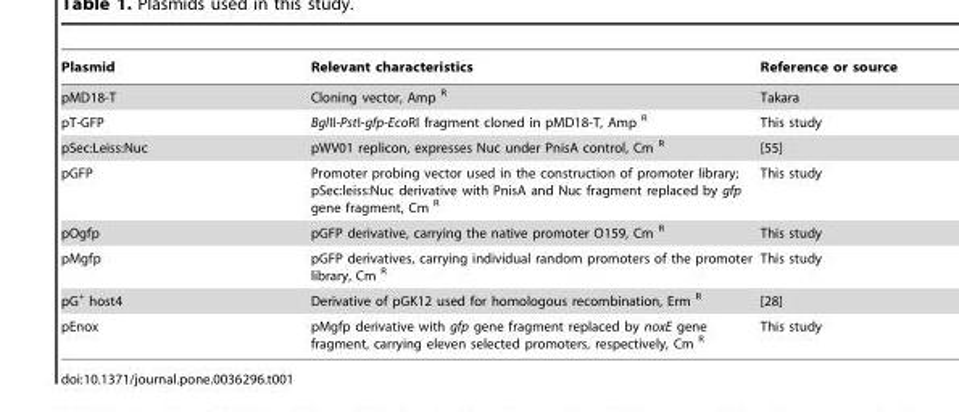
<table><thead><tr><td>Plasmid</td><td>Relevant characteristics</td><td>Reference or source</td></tr></thead><tbody><tr><td>pMD18-T</td><td>Cloning vector, Amp <sup>R</sup></td><td>Takara</td></tr><tr><td>pT-GFP</td><td>BglII-PstI-gfp-EcoRI fragment cloned in pMD18-T, Amp <sup>R</sup></td><td>This study</td></tr><tr><td>pSec:Leiss:Nuc</td><td>pWV01 replicon, expresses Nuc under PnisA control, Cm <sup>R</sup></td><td>[55]</td></tr><tr><td>pGFP</td><td>Promoter probing vector used in the construction of promoter library; pSec:leiss:Nuc derivative with PnisA and Nuc fragment replaced by gfp gene fragment, Cm R</td><td>This study</td></tr><tr><td>pOgfp</td><td>pGFP derivative, carrying the native promoter O159, Cm <sup>R</sup></td><td>This study</td></tr><tr><td>pMgfp</td><td>pGFP derivatives, carrying individual random promoters of the promoter library, Cm <sup>R</sup></td><td>This study</td></tr><tr><td>pG<sup>+</sup> host4</td><td>Derivative of pGK12 used for homologous recombination, Erm <sup>R</sup></td><td>[28]</td></tr><tr><td>pEnox</td><td>pMgfp derivative with gfp gene fragment replaced by noxE gene fragment, carrying eleven selected promoters, respectively, Cm <sup>R</sup></td><td>This study</td></tr></tbody></table>